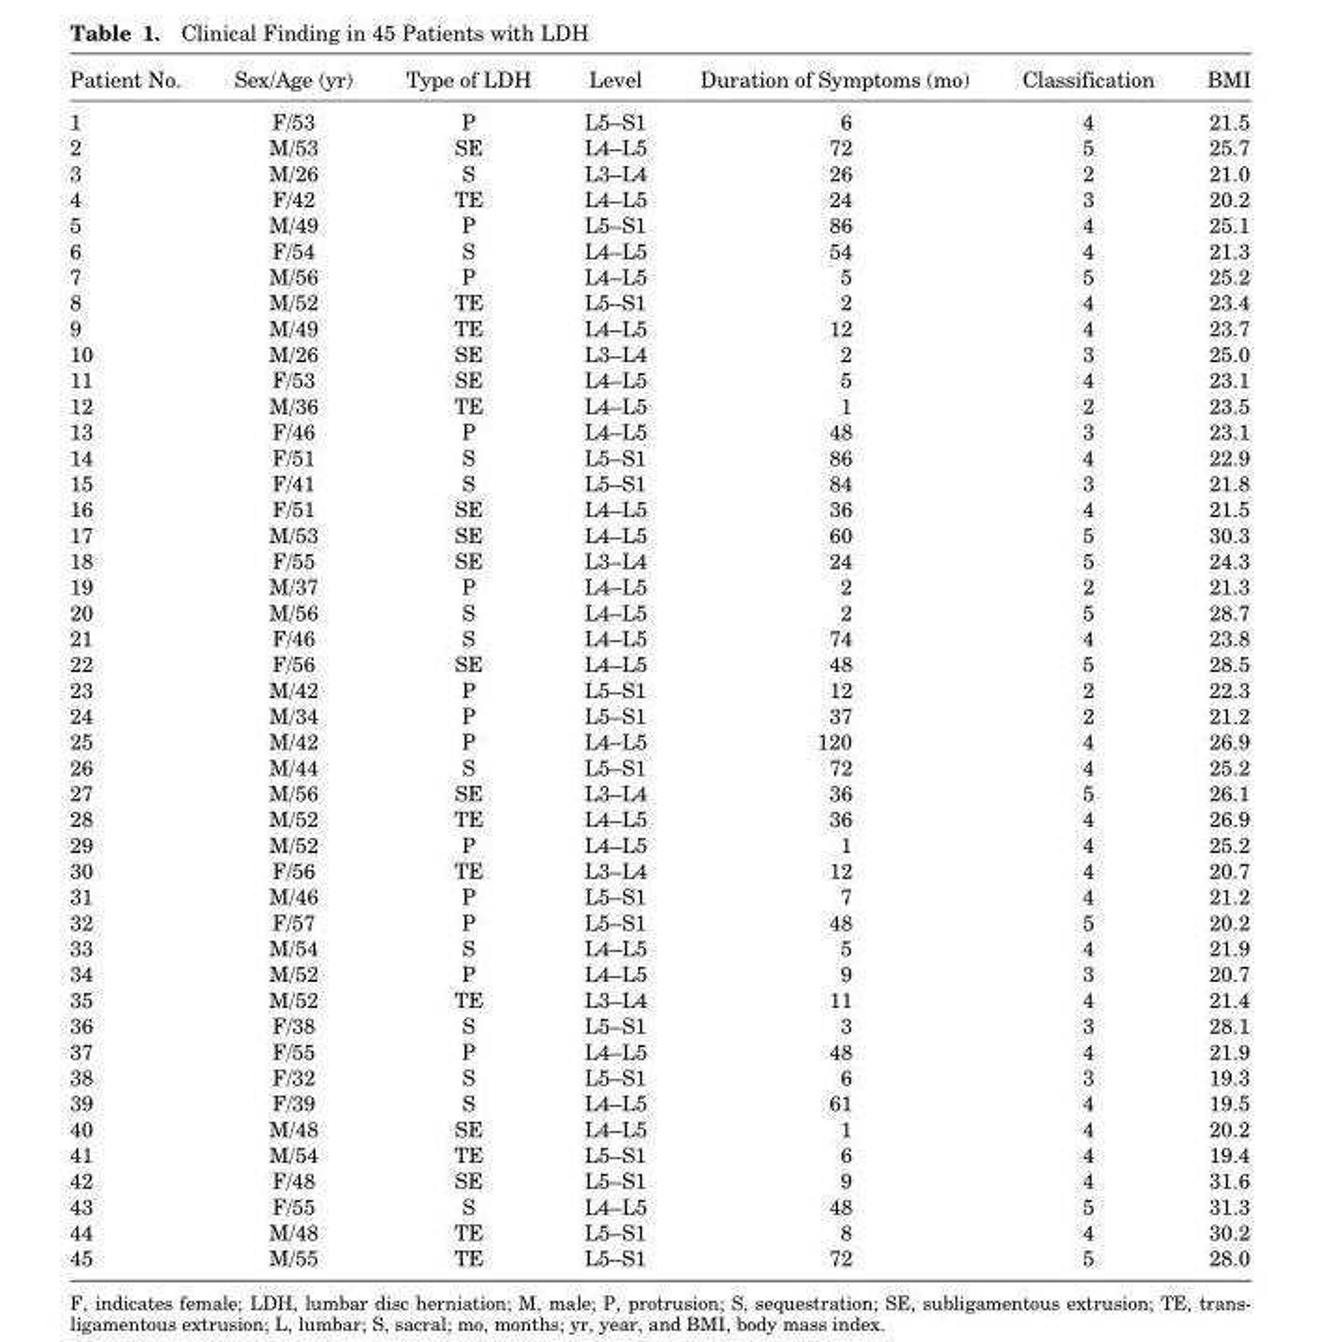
<table><thead><tr><td>Patient No.</td><td>Sex/Age (yr)</td><td>Type of LDH</td><td>Level</td><td>Duration of Symptoms (mo)</td><td>Classification</td><td>BMI</td></tr></thead><tbody><tr><td>1</td><td>F/53</td><td>P</td><td>L5–S1</td><td>6</td><td>4</td><td>21.5</td></tr><tr><td>2</td><td>M/53</td><td>SE</td><td>L4–L5</td><td>72</td><td>5</td><td>25.7</td></tr><tr><td>3</td><td>M/26</td><td>S</td><td>L3–L4</td><td>26</td><td>2</td><td>21.0</td></tr><tr><td>4</td><td>F/42</td><td>TE</td><td>L4–L5</td><td>24</td><td>3</td><td>20.2</td></tr><tr><td>5</td><td>M/49</td><td>P</td><td>L5–S1</td><td>86</td><td>4</td><td>25.1</td></tr><tr><td>6</td><td>F/54</td><td>S</td><td>L4–L5</td><td>54</td><td>4</td><td>21.3</td></tr><tr><td>7</td><td>M/56</td><td>P</td><td>L4–L5</td><td>5</td><td>5</td><td>25.2</td></tr><tr><td>8</td><td>M/52</td><td>TE</td><td>L5–S1</td><td>2</td><td>4</td><td>23.4</td></tr><tr><td>9</td><td>M/49</td><td>TE</td><td>L4–L5</td><td>12</td><td>4</td><td>23.7</td></tr><tr><td>10</td><td>M/26</td><td>SE</td><td>L3–L4</td><td>2</td><td>3</td><td>25.0</td></tr><tr><td>11</td><td>F/53</td><td>SE</td><td>L4–L5</td><td>5</td><td>4</td><td>23.1</td></tr><tr><td>12</td><td>M/36</td><td>TE</td><td>L4–L5</td><td>1</td><td>2</td><td>23.5</td></tr><tr><td>13</td><td>F/46</td><td>P</td><td>L4–L5</td><td>48</td><td>3</td><td>23.1</td></tr><tr><td>14</td><td>F/51</td><td>S</td><td>L5–S1</td><td>86</td><td>4</td><td>22.9</td></tr><tr><td>15</td><td>F/41</td><td>S</td><td>L5–S1</td><td>84</td><td>3</td><td>21.8</td></tr><tr><td>16</td><td>F/51</td><td>SE</td><td>L4–L5</td><td>36</td><td>4</td><td>21.5</td></tr><tr><td>17</td><td>M/53</td><td>SE</td><td>L4–L5</td><td>60</td><td>5</td><td>30.3</td></tr><tr><td>18</td><td>F/55</td><td>SE</td><td>L3–L4</td><td>24</td><td>5</td><td>24.3</td></tr><tr><td>19</td><td>M/37</td><td>P</td><td>L4–L5</td><td>2</td><td>2</td><td>21.3</td></tr><tr><td>20</td><td>M/56</td><td>S</td><td>L4–L5</td><td>2</td><td>5</td><td>28.7</td></tr><tr><td>21</td><td>F/46</td><td>S</td><td>L4–L5</td><td>74</td><td>4</td><td>23.8</td></tr><tr><td>22</td><td>F/56</td><td>SE</td><td>L4–L5</td><td>48</td><td>5</td><td>28.5</td></tr><tr><td>23</td><td>M/42</td><td>P</td><td>L5–S1</td><td>12</td><td>2</td><td>22.3</td></tr><tr><td>24</td><td>M/34</td><td>P</td><td>L5–S1</td><td>37</td><td>2</td><td>21.2</td></tr><tr><td>25</td><td>M/42</td><td>P</td><td>L4–L5</td><td>120</td><td>4</td><td>26.9</td></tr><tr><td>26</td><td>M/44</td><td>S</td><td>L5–S1</td><td>72</td><td>4</td><td>25.2</td></tr><tr><td>27</td><td>M/56</td><td>SE</td><td>L3–L4</td><td>36</td><td>5</td><td>26.1</td></tr><tr><td>28</td><td>M/52</td><td>TE</td><td>L4–L5</td><td>36</td><td>4</td><td>26.9</td></tr><tr><td>29</td><td>M/52</td><td>P</td><td>L4–L5</td><td>1</td><td>4</td><td>25.2</td></tr><tr><td>30</td><td>F/56</td><td>TE</td><td>L3–L4</td><td>12</td><td>4</td><td>20.7</td></tr><tr><td>31</td><td>M/46</td><td>P</td><td>L5–S1</td><td>7</td><td>4</td><td>21.2</td></tr><tr><td>32</td><td>F/57</td><td>P</td><td>L5–S1</td><td>48</td><td>5</td><td>20.2</td></tr><tr><td>33</td><td>M/54</td><td>S</td><td>L4–L5</td><td>5</td><td>4</td><td>21.9</td></tr><tr><td>34</td><td>M/52</td><td>P</td><td>L4–L5</td><td>9</td><td>3</td><td>20.7</td></tr><tr><td>35</td><td>M/52</td><td>TE</td><td>L3–L4</td><td>11</td><td>4</td><td>21.4</td></tr><tr><td>36</td><td>F/38</td><td>S</td><td>L5–S1</td><td>3</td><td>3</td><td>28.1</td></tr><tr><td>37</td><td>F/55</td><td>P</td><td>L4–L5</td><td>48</td><td>4</td><td>21.9</td></tr><tr><td>38</td><td>F/32</td><td>S</td><td>L5–S1</td><td>6</td><td>3</td><td>19.3</td></tr><tr><td>39</td><td>F/39</td><td>S</td><td>L4–L5</td><td>61</td><td>4</td><td>19.5</td></tr><tr><td>40</td><td>M/48</td><td>SE</td><td>L4–L5</td><td>1</td><td>4</td><td>20.2</td></tr><tr><td>41</td><td>M/54</td><td>TE</td><td>L5–S1</td><td>6</td><td>4</td><td>19.4</td></tr><tr><td>42</td><td>F/48</td><td>SE</td><td>L5–S1</td><td>9</td><td>4</td><td>31.6</td></tr><tr><td>43</td><td>F/55</td><td>S</td><td>L4–L5</td><td>48</td><td>5</td><td>31.3</td></tr><tr><td>44</td><td>M/48</td><td>TE</td><td>L5–S1</td><td>8</td><td>4</td><td>30.2</td></tr><tr><td>45</td><td>M/55</td><td>TE</td><td>L5–S1</td><td>72</td><td>5</td><td>28.0</td></tr></tbody></table>